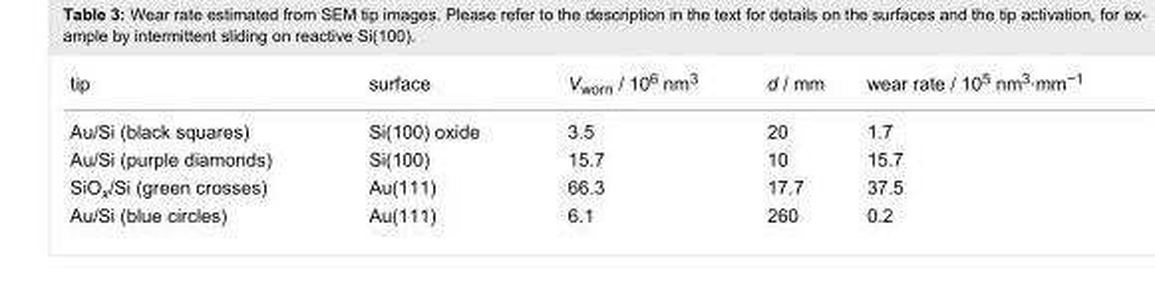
<table><tbody><tr><td>tip</td><td>surface</td><td>V<sub>worn</sub> / 10<sup>6</sup> nm<sup>3</sup></td><td>d / mm</td><td>wear rate / 10<sup>5</sup> nm<sup>3</sup>·mm<sup>−1</sup></td></tr><tr><td>Au/Si (black squares)</td><td>Si(100) oxide</td><td>3.5</td><td>20</td><td>1.7</td></tr><tr><td>Au/Si (purple diamonds)</td><td>Si(100)</td><td>15.7</td><td>10</td><td>15.7</td></tr><tr><td>SiO<sub>x</sub>/Si (green crosses)</td><td>Au(111)</td><td>66.3</td><td>17.7</td><td>37.5</td></tr><tr><td>Au/Si (blue circles)</td><td>Au(111)</td><td>6.1</td><td>260</td><td>0.2</td></tr></tbody></table>